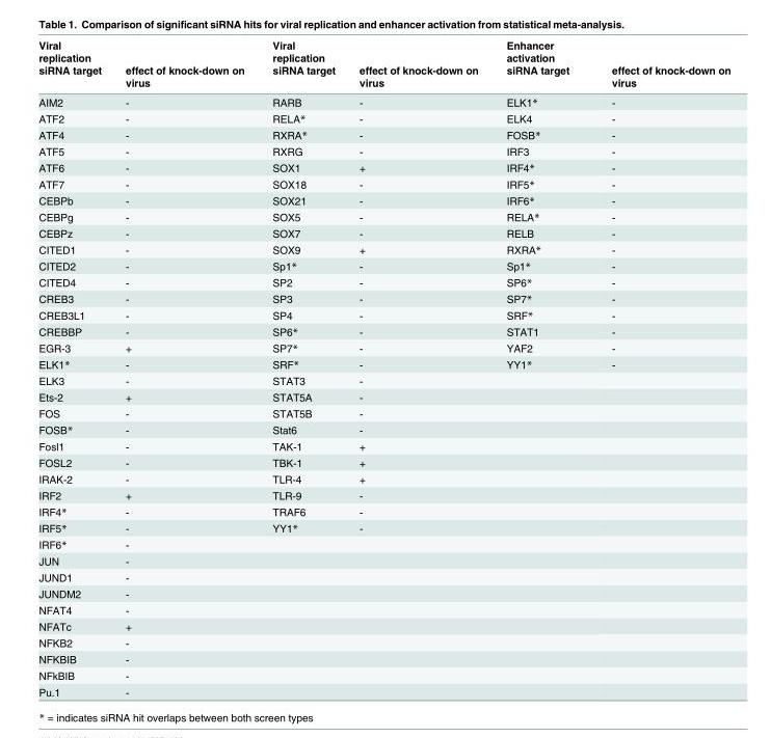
<table><thead><tr><td rowspan="2">Viral replication siRNA target</td><td rowspan="2">effect of knock-down on virus</td><td rowspan="2">Viral replication siRNA target</td><td rowspan="2">effect of knock-down on virus</td><td rowspan="2">Enhancer activation siRNA target</td><td rowspan="2">effect of knock-down on virus</td></tr><tr></tr></thead><tbody><tr><td>AIM2</td><td>-</td><td>RARB</td><td>-</td><td>ELK1*</td><td>-</td></tr><tr><td>ATF2</td><td>-</td><td>RELA*</td><td>-</td><td>ELK4</td><td>-</td></tr><tr><td>ATF4</td><td>-</td><td>RXRA*</td><td>-</td><td>FOSB*</td><td>-</td></tr><tr><td>ATF5</td><td>-</td><td>RXRG</td><td>-</td><td>IRF3</td><td>-</td></tr><tr><td>ATF6</td><td>-</td><td>SOX1</td><td>+</td><td>IRF4*</td><td>-</td></tr><tr><td>ATF7</td><td>-</td><td>SOX18</td><td>-</td><td>IRF5*</td><td>-</td></tr><tr><td>CEBPb</td><td>-</td><td>SOX21</td><td>-</td><td>IRF6*</td><td>-</td></tr><tr><td>CEBPg</td><td>-</td><td>SOX5</td><td>-</td><td>RELA*</td><td>-</td></tr><tr><td>CEBPz</td><td>-</td><td>SOX7</td><td>-</td><td>RELB</td><td>-</td></tr><tr><td>CITED1</td><td>-</td><td>SOX9</td><td>+</td><td>RXRA*</td><td>-</td></tr><tr><td>CITED2</td><td>-</td><td>Sp1*</td><td>-</td><td>Sp1*</td><td>-</td></tr><tr><td>CITED4</td><td>-</td><td>SP2</td><td>-</td><td>SP6*</td><td>-</td></tr><tr><td>CREB3</td><td>-</td><td>SP3</td><td>-</td><td>SP7*</td><td>-</td></tr><tr><td>CREB3L1</td><td>-</td><td>SP4</td><td>-</td><td>SRF*</td><td>-</td></tr><tr><td>CREBBP</td><td>-</td><td>SP6*</td><td>-</td><td>STAT1</td><td>-</td></tr><tr><td>EGR-3</td><td>+</td><td>SP7*</td><td>-</td><td>YAF2</td><td>-</td></tr><tr><td>ELK1*</td><td>-</td><td>SRF*</td><td>-</td><td>YY1*</td><td>-</td></tr><tr><td>ELK3</td><td>-</td><td>STAT3</td><td>-</td><td></td><td></td></tr><tr><td>Ets-2</td><td>+</td><td>STAT5A</td><td>-</td><td></td><td></td></tr><tr><td>FOS</td><td>-</td><td>STAT5B</td><td>-</td><td></td><td></td></tr><tr><td>FOSB*</td><td>-</td><td>Stat6</td><td>-</td><td></td><td></td></tr><tr><td>Fosl1</td><td>-</td><td>TAK-1</td><td>+</td><td></td><td></td></tr><tr><td>FOSL2</td><td>-</td><td>TBK-1</td><td>+</td><td></td><td></td></tr><tr><td>IRAK-2</td><td>-</td><td>TLR-4</td><td>+</td><td></td><td></td></tr><tr><td>IRF2</td><td>+</td><td>TLR-9</td><td>-</td><td></td><td></td></tr><tr><td>IRF4*</td><td>-</td><td>TRAF6</td><td>-</td><td></td><td></td></tr><tr><td>IRF5*</td><td>-</td><td>YY1*</td><td>-</td><td></td><td></td></tr><tr><td>IRF6*</td><td>-</td><td></td><td></td><td></td><td></td></tr><tr><td>JUN</td><td>-</td><td></td><td></td><td></td><td></td></tr><tr><td>JUND1</td><td>-</td><td></td><td></td><td></td><td></td></tr><tr><td>JUNDM2</td><td>-</td><td></td><td></td><td></td><td></td></tr><tr><td>NFAT4</td><td>-</td><td></td><td></td><td></td><td></td></tr><tr><td>NFATc</td><td>+</td><td></td><td></td><td></td><td></td></tr><tr><td>NFKB2</td><td>-</td><td></td><td></td><td></td><td></td></tr><tr><td>NFKBIB</td><td>-</td><td></td><td></td><td></td><td></td></tr><tr><td>NFkBIB</td><td>-</td><td></td><td></td><td></td><td></td></tr><tr><td>Pu.1</td><td>-</td><td></td><td></td><td></td><td></td></tr></tbody></table>